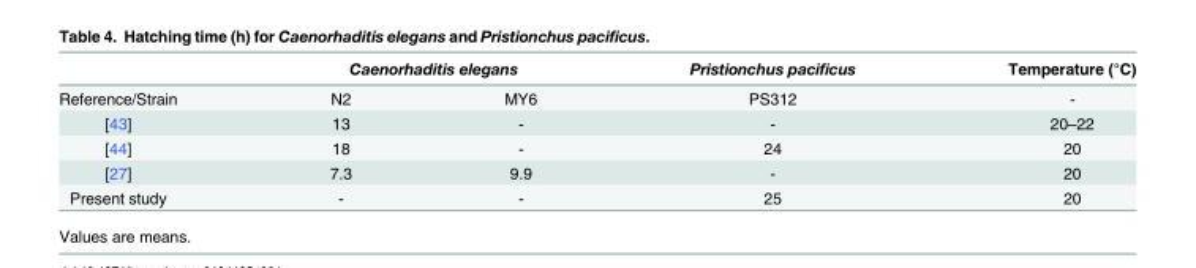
<table><thead><tr><td rowspan="2">Reference/Strain</td><td colspan="2">Caenorhaditis elegans</td><td rowspan="2">Pristionchus pacificus PS312</td><td rowspan="2">Temperature (°C) -</td></tr><tr><td>N2</td><td>MY6</td></tr></thead><tbody><tr><td>[43]</td><td>13</td><td>-</td><td>-</td><td>20–22</td></tr><tr><td>[44]</td><td>18</td><td>-</td><td>24</td><td>20</td></tr><tr><td>[27]</td><td>7.3</td><td>9.9</td><td>-</td><td>20</td></tr><tr><td>Present study</td><td>-</td><td>-</td><td>25</td><td>20</td></tr></tbody></table>